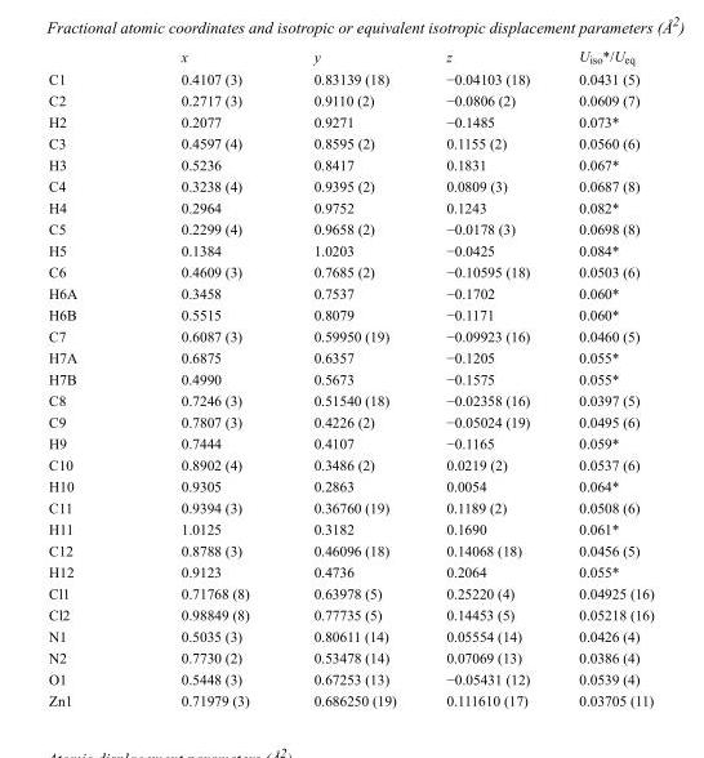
<table><thead><tr><td></td><td>x</td><td>y</td><td>z</td><td>U<sub>iso</sub>*/U<sub>eq</sub></td></tr></thead><tbody><tr><td>C1</td><td>0.4107 (3)</td><td>0.83139 (18)</td><td>−0.04103 (18)</td><td>0.0431 (5)</td></tr><tr><td>C2</td><td>0.2717 (3)</td><td>0.9110 (2)</td><td>−0.0806 (2)</td><td>0.0609 (7)</td></tr><tr><td>H2</td><td>0.2077</td><td>0.9271</td><td>−0.1485</td><td>0.073*</td></tr><tr><td>C3</td><td>0.4597 (4)</td><td>0.8595 (2)</td><td>0.1155 (2)</td><td>0.0560 (6)</td></tr><tr><td>H3</td><td>0.5236</td><td>0.8417</td><td>0.1831</td><td>0.067*</td></tr><tr><td>C4</td><td>0.3238 (4)</td><td>0.9395 (2)</td><td>0.0809 (3)</td><td>0.0687 (8)</td></tr><tr><td>H4</td><td>0.2964</td><td>0.9752</td><td>0.1243</td><td>0.082*</td></tr><tr><td>C5</td><td>0.2299 (4)</td><td>0.9658 (2)</td><td>−0.0178 (3)</td><td>0.0698 (8)</td></tr><tr><td>H5</td><td>0.1384</td><td>1.0203</td><td>−0.0425</td><td>0.084*</td></tr><tr><td>C6</td><td>0.4609 (3)</td><td>0.7685 (2)</td><td>−0.10595 (18)</td><td>0.0503 (6)</td></tr><tr><td>H6A</td><td>0.3458</td><td>0.7537</td><td>−0.1702</td><td>0.060*</td></tr><tr><td>H6B</td><td>0.5515</td><td>0.8079</td><td>−0.1171</td><td>0.060*</td></tr><tr><td>C7</td><td>0.6087 (3)</td><td>0.59950 (19)</td><td>−0.09923 (16)</td><td>0.0460 (5)</td></tr><tr><td>H7A</td><td>0.6875</td><td>0.6357</td><td>−0.1205</td><td>0.055*</td></tr><tr><td>H7B</td><td>0.4990</td><td>0.5673</td><td>−0.1575</td><td>0.055*</td></tr><tr><td>C8</td><td>0.7246 (3)</td><td>0.51540 (18)</td><td>−0.02358 (16)</td><td>0.0397 (5)</td></tr><tr><td>C9</td><td>0.7807 (3)</td><td>0.4226 (2)</td><td>−0.05024 (19)</td><td>0.0495 (6)</td></tr><tr><td>H9</td><td>0.7444</td><td>0.4107</td><td>−0.1165</td><td>0.059*</td></tr><tr><td>C10</td><td>0.8902 (4)</td><td>0.3486 (2)</td><td>0.0219 (2)</td><td>0.0537 (6)</td></tr><tr><td>H10</td><td>0.9305</td><td>0.2863</td><td>0.0054</td><td>0.064*</td></tr><tr><td>C11</td><td>0.9394 (3)</td><td>0.36760 (19)</td><td>0.1189 (2)</td><td>0.0508 (6)</td></tr><tr><td>H11</td><td>1.0125</td><td>0.3182</td><td>0.1690</td><td>0.061*</td></tr><tr><td>C12</td><td>0.8788 (3)</td><td>0.46096 (18)</td><td>0.14068 (18)</td><td>0.0456 (5)</td></tr><tr><td>H12</td><td>0.9123</td><td>0.4736</td><td>0.2064</td><td>0.055*</td></tr><tr><td>Cl1</td><td>0.71768 (8)</td><td>0.63978 (5)</td><td>0.25220 (4)</td><td>0.04925 (16)</td></tr><tr><td>Cl2</td><td>0.98849 (8)</td><td>0.77735 (5)</td><td>0.14453 (5)</td><td>0.05218 (16)</td></tr><tr><td>N1</td><td>0.5035 (3)</td><td>0.80611 (14)</td><td>0.05554 (14)</td><td>0.0426 (4)</td></tr><tr><td>N2</td><td>0.7730 (2)</td><td>0.53478 (14)</td><td>0.07069 (13)</td><td>0.0386 (4)</td></tr><tr><td>O1</td><td>0.5448 (3)</td><td>0.67253 (13)</td><td>−0.05431 (12)</td><td>0.0539 (4)</td></tr><tr><td>Zn1</td><td>0.71979 (3)</td><td>0.686250 (19)</td><td>0.111610 (17)</td><td>0.03705 (11)</td></tr></tbody></table>